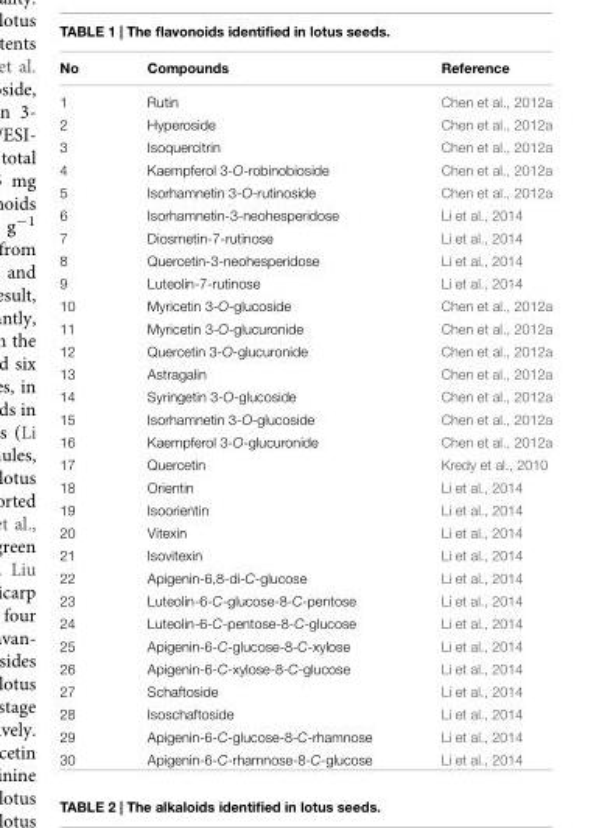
<table><thead><tr><td>No</td><td>Compounds</td><td>Reference</td></tr></thead><tbody><tr><td>1</td><td>Rutin</td><td>Chen et al., 2012a</td></tr><tr><td>2</td><td>Hyperoside</td><td>Chen et al., 2012a</td></tr><tr><td>3</td><td>Isoquercitrin</td><td>Chen et al., 2012a</td></tr><tr><td>4</td><td>Kaempferol 3-O-robinobioside</td><td>Chen et al., 2012a</td></tr><tr><td>5</td><td>Isorhamnetin 3-O-rutinoside</td><td>Chen et al., 2012a</td></tr><tr><td>6</td><td>Isorhamnetin-3-neohesperidose</td><td>Li et al., 2014</td></tr><tr><td>7</td><td>Diosmetin-7-rutinose</td><td>Li et al., 2014</td></tr><tr><td>8</td><td>Quercetin-3-neohesperidose</td><td>Li et al., 2014</td></tr><tr><td>9</td><td>Luteolin-7-rutinose</td><td>Li et al., 2014</td></tr><tr><td>10</td><td>Myricetin 3-O-glucoside</td><td>Chen et al., 2012a</td></tr><tr><td>11</td><td>Myricetin 3-O-glucuronide</td><td>Chen et al., 2012a</td></tr><tr><td>12</td><td>Quercetin 3-O-glucuronide</td><td>Chen et al., 2012a</td></tr><tr><td>13</td><td>Astragalin</td><td>Chen et al., 2012a</td></tr><tr><td>14</td><td>Syringetin 3-O-glucoside</td><td>Chen et al., 2012a</td></tr><tr><td>15</td><td>Isorhamnetin 3-O-glucoside</td><td>Chen et al., 2012a</td></tr><tr><td>16</td><td>Kaempferol 3-O-glucuronide</td><td>Chen et al., 2012a</td></tr><tr><td>17</td><td>Quercetin</td><td>Kredy et al., 2010</td></tr><tr><td>18</td><td>Orientin</td><td>Li et al., 2014</td></tr><tr><td>19</td><td>Isoorientin</td><td>Li et al., 2014</td></tr><tr><td>20</td><td>Vitexin</td><td>Li et al., 2014</td></tr><tr><td>21</td><td>Isovitexin</td><td>Li et al., 2014</td></tr><tr><td>22</td><td>Apigenin-6,8-di-C-glucose</td><td>Li et al., 2014</td></tr><tr><td>23</td><td>Luteolin-6-C-glucose-8-C-pentose</td><td>Li et al., 2014</td></tr><tr><td>24</td><td>Luteolin-6-C-pentose-8-C-glucose</td><td>Li et al., 2014</td></tr><tr><td>25</td><td>Apigenin-6-C-glucose-8-C-xylose</td><td>Li et al., 2014</td></tr><tr><td>26</td><td>Apigenin-6-C-xylose-8-C-glucose</td><td>Li et al., 2014</td></tr><tr><td>27</td><td>Schaftoside</td><td>Li et al., 2014</td></tr><tr><td>28</td><td>Isoschaftoside</td><td>Li et al., 2014</td></tr><tr><td>29</td><td>Apigenin-6-C-glucose-8-C-rhamnose</td><td>Li et al., 2014</td></tr><tr><td>30</td><td>Apigenin-6-C-rhamnose-8-C-glucose</td><td>Li et al., 2014</td></tr></tbody></table>